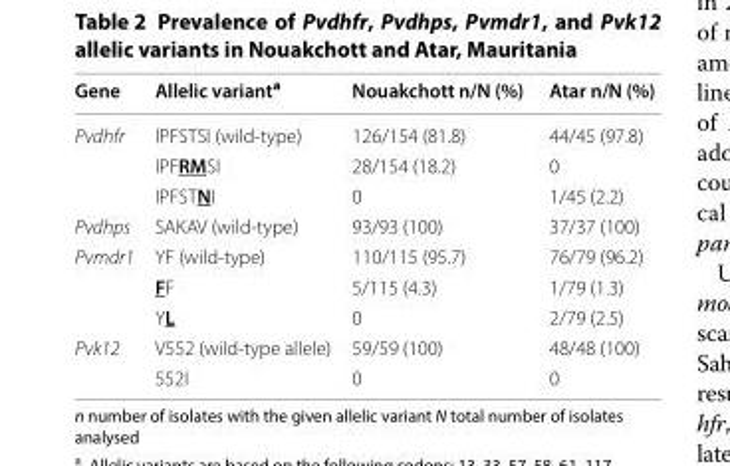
<table><thead><tr><td>Gene</td><td>Allelic variant<sup>a</sup></td><td>Nouakchott n/N (%)</td><td>Atar n/N (%)</td></tr></thead><tbody><tr><td rowspan="3">Pvdhfr</td><td>IPFSTSI (wild-type)</td><td>126/154 (81.8)</td><td>44/45 (97.8)</td></tr><tr><td>IPFRMSI</td><td>28/154 (18.2)</td><td>0</td></tr><tr><td>IPFSTNI</td><td>0</td><td>1/45 (2.2)</td></tr><tr><td>Pvdhps</td><td>SAKAV (wild-type)</td><td>93/93 (100)</td><td>37/37 (100)</td></tr><tr><td rowspan="3">Pvmdr1</td><td>YF (wild-type)</td><td>110/115 (95.7)</td><td>76/79 (96.2)</td></tr><tr><td>FF</td><td>5/115 (4.3)</td><td>1/79 (1.3)</td></tr><tr><td>YL</td><td>0</td><td>2/79 (2.5)</td></tr><tr><td rowspan="2">Pvk12</td><td>V552 (wild-type allele)</td><td>59/59 (100)</td><td>48/48 (100)</td></tr><tr><td>552I</td><td>0</td><td>0</td></tr></tbody></table>